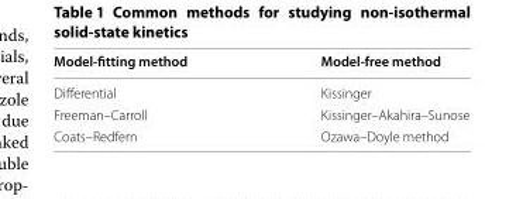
<table><thead><tr><td>Model-fitting method</td><td>Model-free method</td></tr></thead><tbody><tr><td>Differential</td><td>Kissinger</td></tr><tr><td>Freeman–Carroll</td><td>Kissinger–Akahira–Sunose</td></tr><tr><td>Coats–Redfern</td><td>Ozawa–Doyle method</td></tr></tbody></table>